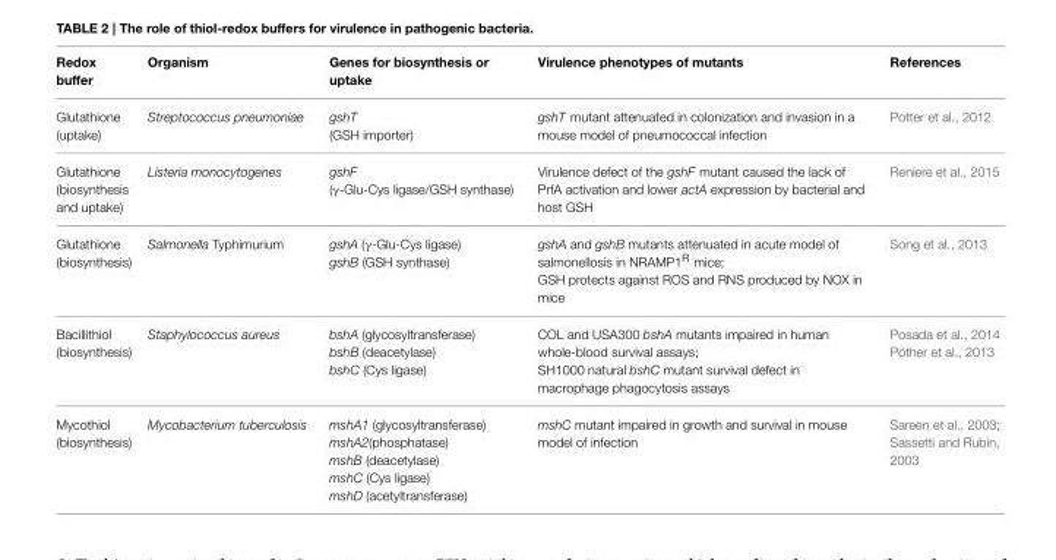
<table><thead><tr><td>Redox buffer</td><td>Organism</td><td>Genes for biosynthesis or uptake</td><td>Virulence phenotypes of mutants</td><td>References</td></tr></thead><tbody><tr><td>Glutathione (uptake)</td><td>Streptococcus pneumoniae</td><td>gshT (GSH importer)</td><td>gshT mutant attenuated in colonization and invasion in a mouse model of pneumococcal infection</td><td>Potter et al., 2012</td></tr><tr><td>Glutathione (biosynthesis and uptake)</td><td>Listeria monocytogenes</td><td>gshF (γ-Glu-Cys ligase/GSH synthase)</td><td>Virulence defect of the gshF mutant caused the lack of PrfA activation and lower actA expression by bacterial and host GSH</td><td>Reniere et al., 2015</td></tr><tr><td>Glutathione (biosynthesis)</td><td>Salmonella Typhimurium</td><td>gshA (γ-Glu-Cys ligase) gshB (GSH synthase)</td><td>gshA and gshB mutants attenuated in acute model of salmonellosis in NRAMP1<sup>R</sup> mice; GSH protects against ROS and RNS produced by NOX in mice</td><td>Song et al., 2013</td></tr><tr><td>Bacillithiol (biosynthesis)</td><td>Staphylococcus aureus</td><td>bshA (glycosyltransferase) bshB (deacetylase) bshC (Cys ligase)</td><td>COL and USA300 bshA mutants impaired in human whole-blood survival assays; SH1000 natural bshC mutant survival defect in macrophage phagocytosis assays</td><td>Posada et al., 2014 Pöther et al., 2013</td></tr><tr><td>Mycothiol (biosynthesis)</td><td>Mycobacterium tuberculosis</td><td>mshA1 (glycosyltransferase) mshA2(phosphatase) mshB (deacetylase) mshC (Cys ligase) mshD (acetyltransferase)</td><td>mshC mutant impaired in growth and survival in mouse model of infection</td><td>Sareen et al., 2003; Sassetti and Rubin, 2003</td></tr></tbody></table>